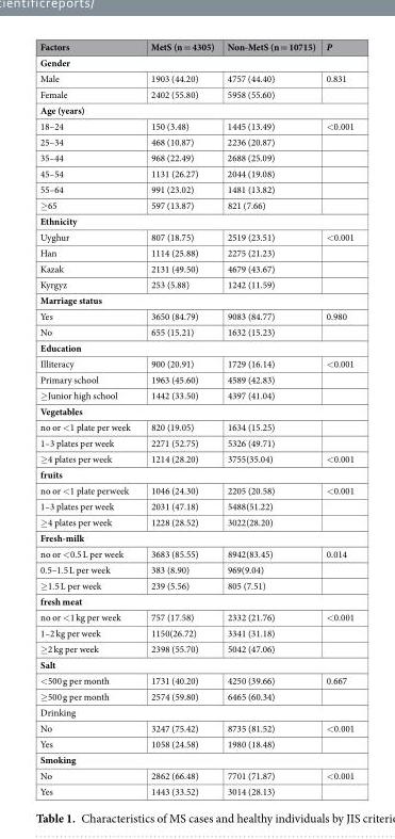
<table><thead><tr><td>Factors</td><td>MetS (n = 4305)</td><td>Non-MetS (n = 10715)</td><td>P</td></tr></thead><tbody><tr><td colspan="4">Gender</td></tr><tr><td>Male</td><td>1903 (44.20)</td><td>4757 (44.40)</td><td>0.831</td></tr><tr><td>Female</td><td>2402 (55.80)</td><td>5958 (55.60)</td><td></td></tr><tr><td colspan="4">Age (years)</td></tr><tr><td>18–24</td><td>150 (3.48)</td><td>1445 (13.49)</td><td>&lt;0.001</td></tr><tr><td>25–34</td><td>468 (10.87)</td><td>2236 (20.87)</td><td></td></tr><tr><td>35–44</td><td>968 (22.49)</td><td>2688 (25.09)</td><td></td></tr><tr><td>45–54</td><td>1131 (26.27)</td><td>2044 (19.08)</td><td></td></tr><tr><td>55–64</td><td>991 (23.02)</td><td>1481 (13.82)</td><td></td></tr><tr><td>≥65</td><td>597 (13.87)</td><td>821 (7.66)</td><td></td></tr><tr><td colspan="4">Ethnicity</td></tr><tr><td>Uyghur</td><td>807 (18.75)</td><td>2519 (23.51)</td><td>&lt;0.001</td></tr><tr><td>Han</td><td>1114 (25.88)</td><td>2275 (21.23)</td><td></td></tr><tr><td>Kazak</td><td>2131 (49.50)</td><td>4679 (43.67)</td><td></td></tr><tr><td>Kyrgyz</td><td>253 (5.88)</td><td>1242 (11.59)</td><td></td></tr><tr><td colspan="4">Marriage status</td></tr><tr><td>Yes</td><td>3650 (84.79)</td><td>9083 (84.77)</td><td>0.980</td></tr><tr><td>No</td><td>655 (15.21)</td><td>1632 (15.23)</td><td></td></tr><tr><td colspan="4">Education</td></tr><tr><td>Illiteracy</td><td>900 (20.91)</td><td>1729 (16.14)</td><td>&lt;0.001</td></tr><tr><td>Primary school</td><td>1963 (45.60)</td><td>4589 (42.83)</td><td></td></tr><tr><td>≥Junior high school</td><td>1442 (33.50)</td><td>4397 (41.04)</td><td></td></tr><tr><td colspan="4">Vegetables</td></tr><tr><td>no or &lt;1 plate per week</td><td>820 (19.05)</td><td>1634 (15.25)</td><td></td></tr><tr><td>1–3 plates per week</td><td>2271 (52.75)</td><td>5326 (49.71)</td><td></td></tr><tr><td>≥4 plates per week</td><td>1214 (28.20)</td><td>3755(35.04)</td><td>&lt;0.001</td></tr><tr><td colspan="4">fruits</td></tr><tr><td>no or &lt;1 plate perweek</td><td>1046 (24.30)</td><td>2205 (20.58)</td><td>&lt;0.001</td></tr><tr><td>1–3 plates per week</td><td>2031 (47.18)</td><td>5488(51.22)</td><td></td></tr><tr><td>≥4 plates per week</td><td>1228 (28.52)</td><td>3022(28.20)</td><td></td></tr><tr><td colspan="4">Fresh-milk</td></tr><tr><td>no or &lt;0.5 L per week</td><td>3683 (85.55)</td><td>8942(83.45)</td><td>0.014</td></tr><tr><td>0.5–1.5 L per week</td><td>383 (8.90)</td><td>969(9.04)</td><td></td></tr><tr><td>≥1.5 L per week</td><td>239 (5.56)</td><td>805 (7.51)</td><td></td></tr><tr><td colspan="4">fresh meat</td></tr><tr><td>no or &lt;1 kg per week</td><td>757 (17.58)</td><td>2332 (21.76)</td><td>&lt;0.001</td></tr><tr><td>1–2 kg per week</td><td>1150(26.72)</td><td>3341 (31.18)</td><td></td></tr><tr><td>≥2 kg per week</td><td>2398 (55.70)</td><td>5042 (47.06)</td><td></td></tr><tr><td colspan="4">Salt</td></tr><tr><td>&lt;500 g per month</td><td>1731 (40.20)</td><td>4250 (39.66)</td><td>0.667</td></tr><tr><td>≥500 g per month</td><td>2574 (59.80)</td><td>6465 (60.34)</td><td></td></tr><tr><td colspan="4">Drinking</td></tr><tr><td>No</td><td>3247 (75.42)</td><td>8735 (81.52)</td><td>&lt;0.001</td></tr><tr><td>Yes</td><td>1058 (24.58)</td><td>1980 (18.48)</td><td></td></tr><tr><td colspan="4">Smoking</td></tr><tr><td>No</td><td>2862 (66.48)</td><td>7701 (71.87)</td><td>&lt;0.001</td></tr><tr><td>Yes</td><td>1443 (33.52)</td><td>3014 (28.13)</td><td></td></tr></tbody></table>